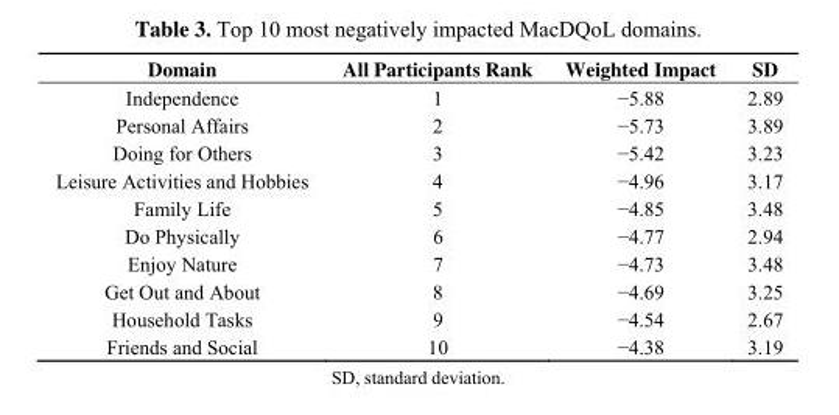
<table><thead><tr><td>Domain</td><td>All Participants Rank</td><td>Weighted Impact</td><td>SD</td></tr></thead><tbody><tr><td>Independence</td><td>1</td><td>−5.88</td><td>2.89</td></tr><tr><td>Personal Affairs</td><td>2</td><td>−5.73</td><td>3.89</td></tr><tr><td>Doing for Others</td><td>3</td><td>−5.42</td><td>3.23</td></tr><tr><td>Leisure Activities and Hobbies</td><td>4</td><td>−4.96</td><td>3.17</td></tr><tr><td>Family Life</td><td>5</td><td>−4.85</td><td>3.48</td></tr><tr><td>Do Physically</td><td>6</td><td>−4.77</td><td>2.94</td></tr><tr><td>Enjoy Nature</td><td>7</td><td>−4.73</td><td>3.48</td></tr><tr><td>Get Out and About</td><td>8</td><td>−4.69</td><td>3.25</td></tr><tr><td>Household Tasks</td><td>9</td><td>−4.54</td><td>2.67</td></tr><tr><td>Friends and Social</td><td>10</td><td>−4.38</td><td>3.19</td></tr></tbody></table>